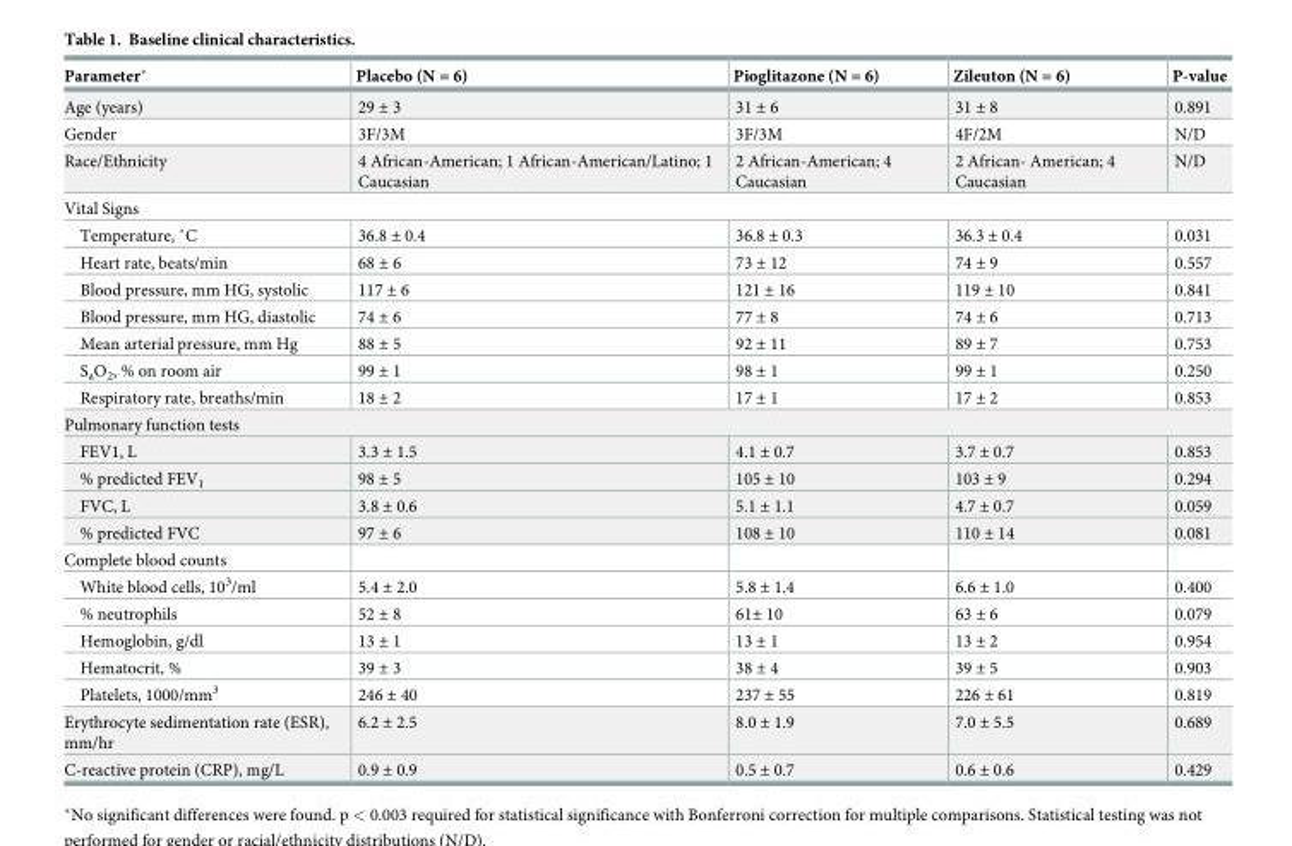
<table><thead><tr><td>Parameter*</td><td>Placebo (N = 6)</td><td>Pioglitazone (N = 6)</td><td>Zileuton (N = 6)</td><td>P-value</td></tr></thead><tbody><tr><td>Age (years)</td><td>29 ± 3</td><td>31 ± 6</td><td>31 ± 8</td><td>0.891</td></tr><tr><td>Gender</td><td>3F/3M</td><td>3F/3M</td><td>4F/2M</td><td>N/D</td></tr><tr><td>Race/Ethnicity</td><td>4 African-American; 1 African-American/Latino; 1 Caucasian</td><td>2 African-American; 4 Caucasian</td><td>2 African- American; 4 Caucasian</td><td>N/D</td></tr><tr><td colspan="5">Vital Signs</td></tr><tr><td>Temperature, ˚C</td><td>36.8 ± 0.4</td><td>36.8 ± 0.3</td><td>36.3 ± 0.4</td><td>0.031</td></tr><tr><td>Heart rate, beats/min</td><td>68 ± 6</td><td>73 ± 12</td><td>74 ± 9</td><td>0.557</td></tr><tr><td>Blood pressure, mm HG, systolic</td><td>117 ± 6</td><td>121 ± 16</td><td>119 ± 10</td><td>0.841</td></tr><tr><td>Blood pressure, mm HG, diastolic</td><td>74 ± 6</td><td>77 ± 8</td><td>74 ± 6</td><td>0.713</td></tr><tr><td>Mean arterial pressure, mm Hg</td><td>88 ± 5</td><td>92 ± 11</td><td>89 ± 7</td><td>0.753</td></tr><tr><td>S<sub>a</sub>O<sub>2</sub>, % on room air</td><td>99 ± 1</td><td>98 ± 1</td><td>99 ± 1</td><td>0.250</td></tr><tr><td>Respiratory rate, breaths/min</td><td>18 ± 2</td><td>17 ± 1</td><td>17 ± 2</td><td>0.853</td></tr><tr><td colspan="5">Pulmonary function tests</td></tr><tr><td>FEV1, L</td><td>3.3 ± 1.5</td><td>4.1 ± 0.7</td><td>3.7 ± 0.7</td><td>0.853</td></tr><tr><td>% predicted FEV<sub>1</sub></td><td>98 ± 5</td><td>105 ± 10</td><td>103 ± 9</td><td>0.294</td></tr><tr><td>FVC, L</td><td>3.8 ± 0.6</td><td>5.1 ± 1.1</td><td>4.7 ± 0.7</td><td>0.059</td></tr><tr><td>% predicted FVC</td><td>97 ± 6</td><td>108 ± 10</td><td>110 ± 14</td><td>0.081</td></tr><tr><td colspan="5">Complete blood counts</td></tr><tr><td>White blood cells, 10<sup>3</sup>/ml</td><td>5.4 ± 2.0</td><td>5.8 ± 1.4</td><td>6.6 ± 1.0</td><td>0.400</td></tr><tr><td>% neutrophils</td><td>52 ± 8</td><td>61± 10</td><td>63 ± 6</td><td>0.079</td></tr><tr><td>Hemoglobin, g/dl</td><td>13 ± 1</td><td>13 ± 1</td><td>13 ± 2</td><td>0.954</td></tr><tr><td>Hematocrit, %</td><td>39 ± 3</td><td>38 ± 4</td><td>39 ± 5</td><td>0.903</td></tr><tr><td>Platelets, 1000/mm<sup>3</sup></td><td>246 ± 40</td><td>237 ± 55</td><td>226 ± 61</td><td>0.819</td></tr><tr><td>Erythrocyte sedimentation rate (ESR), mm/hr</td><td>6.2 ± 2.5</td><td>8.0 ± 1.9</td><td>7.0 ± 5.5</td><td>0.689</td></tr><tr><td>C-reactive protein (CRP), mg/L</td><td>0.9 ± 0.9</td><td>0.5 ± 0.7</td><td>0.6 ± 0.6</td><td>0.429</td></tr></tbody></table>